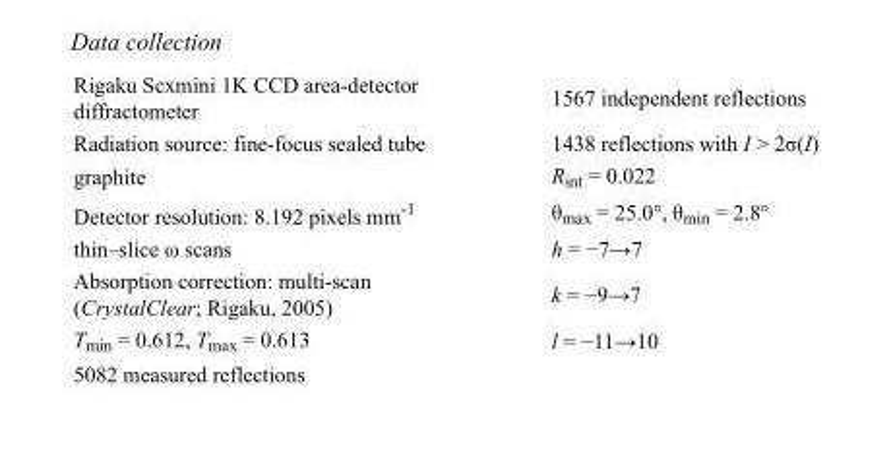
<table><tbody><tr><td>Rigaku Scxmini 1K CCD area-detector diffractometer</td><td>1567 independent reflections</td></tr><tr><td>Radiation source: fine-focus sealed tube</td><td>1438 reflections with I &gt; 2σ(I)</td></tr><tr><td>graphite</td><td>R<sub>int</sub> = 0.022</td></tr><tr><td>Detector resolution: 8.192 pixels mm<sup>-1</sup></td><td>θ<sub>max</sub> = 25.0°, θ<sub>min</sub> = 2.8°</td></tr><tr><td>thin–slice ω scans</td><td>h = −7→7</td></tr><tr><td>Absorption correction: multi-scan (CrystalClear; Rigaku, 2005)</td><td>k = −9→7</td></tr><tr><td>T<sub>min</sub> = 0.612, T<sub>max</sub> = 0.613</td><td>l = −11→10</td></tr><tr><td>5082 measured reflections</td><td></td></tr></tbody></table>